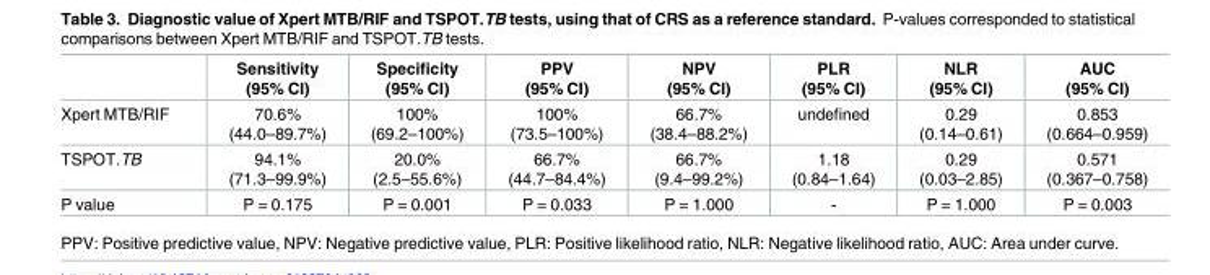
<table><thead><tr><td></td><td>Sensitivity (95% CI)</td><td>Specificity (95% CI)</td><td>PPV (95% CI)</td><td>NPV (95% CI)</td><td>PLR (95% CI)</td><td>NLR (95% CI)</td><td>AUC (95% CI)</td></tr></thead><tbody><tr><td>Xpert MTB/RIF</td><td>70.6% (44.0–89.7%)</td><td>100% (69.2–100%)</td><td>100% (73.5–100%)</td><td>66.7% (38.4–88.2%)</td><td>undefined</td><td>0.29 (0.14–0.61)</td><td>0.853 (0.664–0.959)</td></tr><tr><td>TSPOT.TB</td><td>94.1% (71.3–99.9%)</td><td>20.0% (2.5–55.6%)</td><td>66.7% (44.7–84.4%)</td><td>66.7% (9.4–99.2%)</td><td>1.18 (0.84–1.64)</td><td>0.29 (0.03–2.85)</td><td>0.571 (0.367–0.758)</td></tr><tr><td>P value</td><td>P = 0.175</td><td>P = 0.001</td><td>P = 0.033</td><td>P = 1.000</td><td>-</td><td>P = 1.000</td><td>P = 0.003</td></tr></tbody></table>